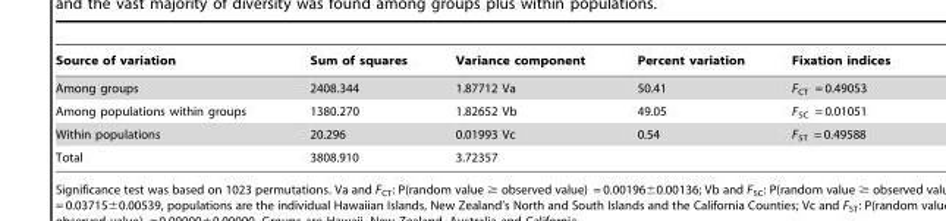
<table><thead><tr><td>Source of variation</td><td>Sum of squares</td><td>Variance component</td><td>Percent variation</td><td>Fixation indices</td></tr></thead><tbody><tr><td>Among groups</td><td>2408.344</td><td>1.87712 Va</td><td>50.41</td><td>F<sub>CT</sub> = 0.49053</td></tr><tr><td>Among populations within groups</td><td>1380.270</td><td>1.82652 Vb</td><td>49.05</td><td>F<sub>SC</sub> = 0.01051</td></tr><tr><td>Within populations</td><td>20.296</td><td>0.01993 Vc</td><td>0.54</td><td>F<sub>ST</sub> = 0.49588</td></tr><tr><td>Total</td><td>3808.910</td><td>3.72357</td><td></td><td></td></tr></tbody></table>